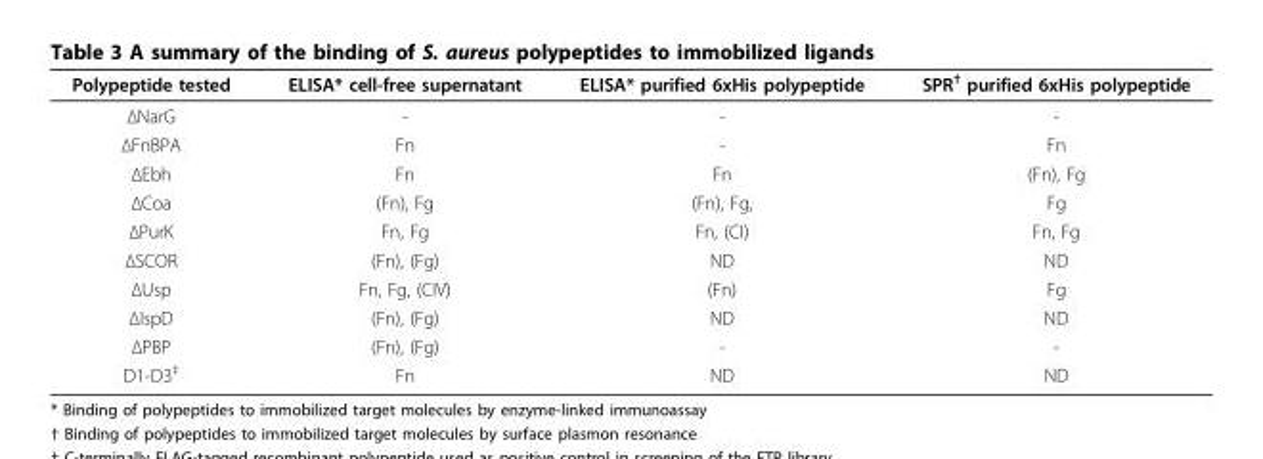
<table><thead><tr><td>Polypeptide tested</td><td>ELISA* cell-free supernatant</td><td>ELISA* purified 6xHis polypeptide</td><td>SPR<sup>†</sup> purified 6xHis polypeptide</td></tr></thead><tbody><tr><td>ΔNarG</td><td>-</td><td>-</td><td>-</td></tr><tr><td>ΔFnBPA</td><td>Fn</td><td>-</td><td>Fn</td></tr><tr><td>ΔEbh</td><td>Fn</td><td>Fn</td><td>(Fn), Fg</td></tr><tr><td>ΔCoa</td><td>(Fn), Fg</td><td>(Fn), Fg,</td><td>Fg</td></tr><tr><td>ΔPurK</td><td>Fn, Fg</td><td>Fn, (CI)</td><td>Fn, Fg</td></tr><tr><td>ΔSCOR</td><td>(Fn), (Fg)</td><td>ND</td><td>ND</td></tr><tr><td>ΔUsp</td><td>Fn, Fg, (CIV)</td><td>(Fn)</td><td>Fg</td></tr><tr><td>ΔIspD</td><td>(Fn), (Fg)</td><td>ND</td><td>ND</td></tr><tr><td>ΔPBP</td><td>(Fn), (Fg)</td><td>-</td><td>-</td></tr><tr><td>D1-D3<sup>‡</sup></td><td>Fn</td><td>ND</td><td>ND</td></tr></tbody></table>